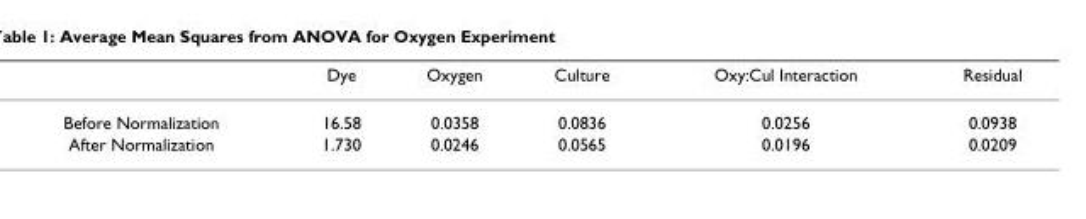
<table><thead><tr><td></td><td>Dye</td><td>Oxygen</td><td>Culture</td><td>Oxy:Cul Interaction</td><td>Residual</td></tr></thead><tbody><tr><td>Before Normalization</td><td>16.58</td><td>0.0358</td><td>0.0836</td><td>0.0256</td><td>0.0938</td></tr><tr><td>After Normalization</td><td>1.730</td><td>0.0246</td><td>0.0565</td><td>0.0196</td><td>0.0209</td></tr></tbody></table>